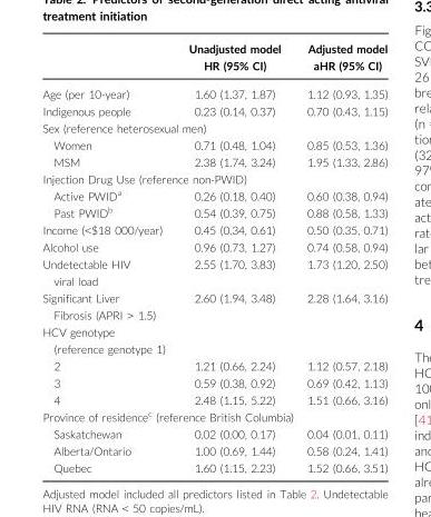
<table><thead><tr><td></td><td>Unadjusted model HR (95% CI)</td><td>Adjusted model aHR (95% CI)</td></tr></thead><tbody><tr><td>Age (per 10-year)</td><td>1.60 (1.37, 1.87)</td><td>1.12 (0.93, 1.35)</td></tr><tr><td>Indigenous people</td><td>0.23 (0.14, 0.37)</td><td>0.70 (0.43, 1.15)</td></tr><tr><td colspan="3">Sex (reference heterosexual men)</td></tr><tr><td>Women</td><td>0.71 (0.48, 1.04)</td><td>0.85 (0.53, 1.36)</td></tr><tr><td>MSM</td><td>2.38 (1.74, 3.24)</td><td>1.95 (1.33, 2.86)</td></tr><tr><td colspan="3">Injection Drug Use (reference non-PWID)</td></tr><tr><td>Active PWID<sup>a</sup></td><td>0.26 (0.18, 0.40)</td><td>0.60 (0.38, 0.94)</td></tr><tr><td>Past PWID<sup>b</sup></td><td>0.54 (0.39, 0.75)</td><td>0.88 (0.58, 1.33)</td></tr><tr><td>Income (&lt;$18 000/year)</td><td>0.45 (0.34, 0.61)</td><td>0.50 (0.35, 0.71)</td></tr><tr><td>Alcohol use</td><td>0.96 (0.73, 1.27)</td><td>0.74 (0.58, 0.94)</td></tr><tr><td>Undetectable HIV viral load</td><td>2.55 (1.70, 3.83)</td><td>1.73 (1.20, 2.50)</td></tr><tr><td>Significant Liver Fibrosis (APRI &gt; 1.5)</td><td>2.60 (1.94, 3.48)</td><td>2.28 (1.64, 3.16)</td></tr><tr><td colspan="3">HCV genotype (reference genotype 1)</td></tr><tr><td>2</td><td>1.21 (0.66, 2.24)</td><td>1.12 (0.57, 2.18)</td></tr><tr><td>3</td><td>0.59 (0.38, 0.92)</td><td>0.69 (0.42, 1.13)</td></tr><tr><td>4</td><td>2.48 (1.15, 5.22)</td><td>1.51 (0.66, 3.16)</td></tr><tr><td colspan="3">Province of residence<sup>c</sup> (reference British Columbia)</td></tr><tr><td>Saskatchewan</td><td>0.02 (0.00, 0.17)</td><td>0.04 (0.01, 0.11)</td></tr><tr><td>Alberta/Ontario</td><td>1.00 (0.69, 1.44)</td><td>0.58 (0.24, 1.41)</td></tr><tr><td>Quebec</td><td>1.60 (1.15, 2.23)</td><td>1.52 (0.66, 3.51)</td></tr></tbody></table>